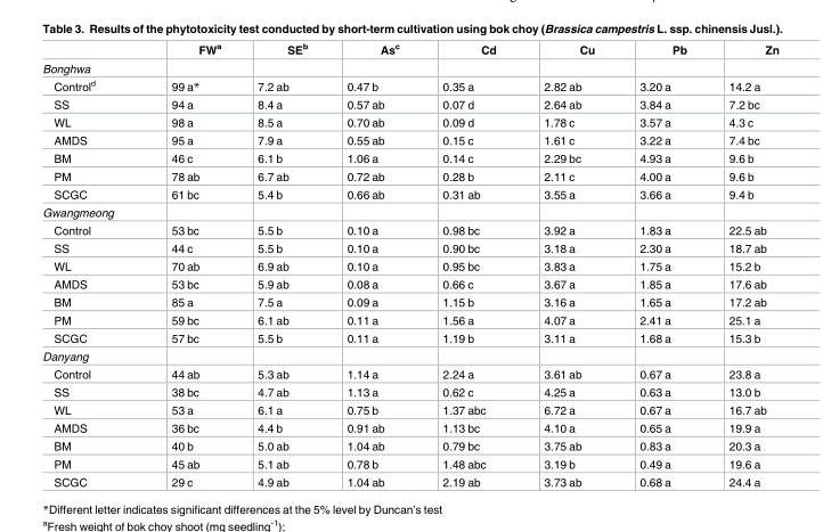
<table><thead><tr><td></td><td>FW<sup>a</sup></td><td>SE<sup>b</sup></td><td>As<sup>c</sup></td><td>Cd</td><td>Cu</td><td>Pb</td><td>Zn</td></tr></thead><tbody><tr><td colspan="8">Bonghwa</td></tr><tr><td>Control<sup>d</sup></td><td>99 a*</td><td>7.2 ab</td><td>0.47 b</td><td>0.35 a</td><td>2.82 ab</td><td>3.20 a</td><td>14.2 a</td></tr><tr><td>SS</td><td>94 a</td><td>8.4 a</td><td>0.57 ab</td><td>0.07 d</td><td>2.64 ab</td><td>3.84 a</td><td>7.2 bc</td></tr><tr><td>WL</td><td>98 a</td><td>8.5 a</td><td>0.70 ab</td><td>0.09 d</td><td>1.78 c</td><td>3.57 a</td><td>4.3 c</td></tr><tr><td>AMDS</td><td>95 a</td><td>7.9 a</td><td>0.55 ab</td><td>0.15 c</td><td>1.61 c</td><td>3.22 a</td><td>7.4 bc</td></tr><tr><td>BM</td><td>46 c</td><td>6.1 b</td><td>1.06 a</td><td>0.14 c</td><td>2.29 bc</td><td>4.93 a</td><td>9.6 b</td></tr><tr><td>PM</td><td>78 ab</td><td>6.7 ab</td><td>0.72 ab</td><td>0.28 b</td><td>2.11 c</td><td>4.00 a</td><td>9.6 b</td></tr><tr><td>SCGC</td><td>61 bc</td><td>5.4 b</td><td>0.66 ab</td><td>0.31 ab</td><td>3.55 a</td><td>3.66 a</td><td>9.4 b</td></tr><tr><td colspan="8">Gwangmeong</td></tr><tr><td>Control</td><td>53 bc</td><td>5.5 b</td><td>0.10 a</td><td>0.98 bc</td><td>3.92 a</td><td>1.83 a</td><td>22.5 ab</td></tr><tr><td>SS</td><td>44 c</td><td>5.5 b</td><td>0.10 a</td><td>0.90 bc</td><td>3.18 a</td><td>2.30 a</td><td>18.7 ab</td></tr><tr><td>WL</td><td>70 ab</td><td>6.9 ab</td><td>0.10 a</td><td>0.95 bc</td><td>3.83 a</td><td>1.75 a</td><td>15.2 b</td></tr><tr><td>AMDS</td><td>53 bc</td><td>5.9 ab</td><td>0.08 a</td><td>0.66 c</td><td>3.67 a</td><td>1.85 a</td><td>17.6 ab</td></tr><tr><td>BM</td><td>85 a</td><td>7.5 a</td><td>0.09 a</td><td>1.15 b</td><td>3.16 a</td><td>1.65 a</td><td>17.2 ab</td></tr><tr><td>PM</td><td>59 bc</td><td>6.1 ab</td><td>0.11 a</td><td>1.56 a</td><td>4.07 a</td><td>2.41 a</td><td>25.1 a</td></tr><tr><td>SCGC</td><td>57 bc</td><td>5.5 b</td><td>0.11 a</td><td>1.19 b</td><td>3.11 a</td><td>1.68 a</td><td>15.3 b</td></tr><tr><td colspan="8">Danyang</td></tr><tr><td>Control</td><td>44 ab</td><td>5.3 ab</td><td>1.14 a</td><td>2.24 a</td><td>3.61 ab</td><td>0.67 a</td><td>23.8 a</td></tr><tr><td>SS</td><td>38 bc</td><td>4.7 ab</td><td>1.13 a</td><td>0.62 c</td><td>4.25 a</td><td>0.63 a</td><td>13.0 b</td></tr><tr><td>WL</td><td>53 a</td><td>6.1 a</td><td>0.75 b</td><td>1.37 abc</td><td>6.72 a</td><td>0.67 a</td><td>16.7 ab</td></tr><tr><td>AMDS</td><td>36 bc</td><td>4.4 b</td><td>0.91 ab</td><td>1.13 bc</td><td>4.10 a</td><td>0.65 a</td><td>19.9 a</td></tr><tr><td>BM</td><td>40 b</td><td>5.0 ab</td><td>1.04 ab</td><td>0.79 bc</td><td>3.75 ab</td><td>0.83 a</td><td>20.3 a</td></tr><tr><td>PM</td><td>45 ab</td><td>5.1 ab</td><td>0.78 b</td><td>1.48 abc</td><td>3.19 b</td><td>0.49 a</td><td>19.6 a</td></tr><tr><td>SCGC</td><td>29 c</td><td>4.9 ab</td><td>1.04 ab</td><td>2.19 ab</td><td>3.73 ab</td><td>0.68 a</td><td>24.4 a</td></tr></tbody></table>